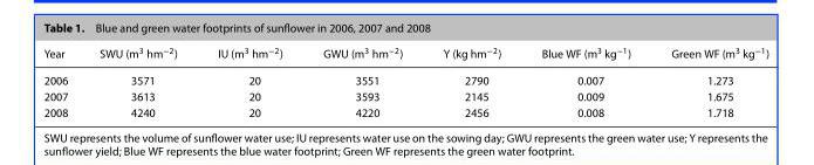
<table><thead><tr><td>Year</td><td>SWU (m<sup>3</sup> hm<sup>−2</sup>)</td><td>IU (m<sup>3</sup> hm<sup>−2</sup>)</td><td>GWU (m<sup>3</sup> hm<sup>−2</sup>)</td><td>Y (kg hm<sup>−2</sup>)</td><td>Blue WF (m<sup>3</sup> kg<sup>−1</sup>)</td><td>Green WF (m<sup>3</sup> kg<sup>−1</sup>)</td></tr></thead><tbody><tr><td>2006</td><td>3571</td><td>20</td><td>3551</td><td>2790</td><td>0.007</td><td>1.273</td></tr><tr><td>2007</td><td>3613</td><td>20</td><td>3593</td><td>2145</td><td>0.009</td><td>1.675</td></tr><tr><td>2008</td><td>4240</td><td>20</td><td>4220</td><td>2456</td><td>0.008</td><td>1.718</td></tr></tbody></table>